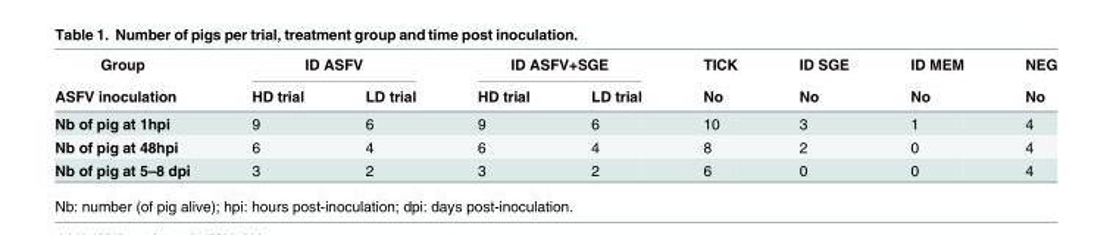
<table><thead><tr><td rowspan="2">Group ASFV inoculation</td><td colspan="2">ID ASFV</td><td colspan="2">ID ASFV+SGE</td><td rowspan="2">TICK No</td><td rowspan="2">ID SGE No</td><td rowspan="2">ID MEM No</td><td rowspan="2">NEG No</td></tr><tr><td>HD trial</td><td>LD trial</td><td>HD trial</td><td>LD trial</td></tr></thead><tbody><tr><td>Nb of pig at 1hpi</td><td>9</td><td>6</td><td>9</td><td>6</td><td>10</td><td>3</td><td>1</td><td>4</td></tr><tr><td>Nb of pig at 48hpi</td><td>6</td><td>4</td><td>6</td><td>4</td><td>8</td><td>2</td><td>0</td><td>4</td></tr><tr><td>Nb of pig at 5–8 dpi</td><td>3</td><td>2</td><td>3</td><td>2</td><td>6</td><td>0</td><td>0</td><td>4</td></tr></tbody></table>